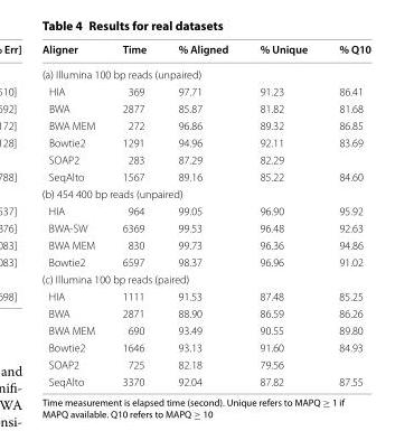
<table><thead><tr><td>Aligner</td><td>Time</td><td>% Aligned</td><td>% Unique</td><td>% Q10</td></tr></thead><tbody><tr><td colspan="5">(a) Illumina 100 bp reads (unpaired)</td></tr><tr><td>HIA</td><td>369</td><td>97.71</td><td>91.23</td><td>86.41</td></tr><tr><td>BWA</td><td>2877</td><td>85.87</td><td>81.82</td><td>81.68</td></tr><tr><td>BWA MEM</td><td>272</td><td>96.86</td><td>89.32</td><td>86.85</td></tr><tr><td>Bowtie2</td><td>1291</td><td>94.96</td><td>92.11</td><td>83.69</td></tr><tr><td>SOAP2</td><td>283</td><td>87.29</td><td>82.29</td><td></td></tr><tr><td>SeqAlto</td><td>1567</td><td>89.16</td><td>85.22</td><td>84.60</td></tr><tr><td colspan="5">(b) 454 400 bp reads (unpaired)</td></tr><tr><td>HIA</td><td>964</td><td>99.05</td><td>96.90</td><td>95.92</td></tr><tr><td>BWA-SW</td><td>6369</td><td>99.53</td><td>96.48</td><td>92.63</td></tr><tr><td>BWA MEM</td><td>830</td><td>99.73</td><td>96.36</td><td>94.86</td></tr><tr><td>Bowtie2</td><td>6597</td><td>98.37</td><td>96.96</td><td>91.02</td></tr><tr><td colspan="5">(c) Illumina 100 bp reads (paired)</td></tr><tr><td>HIA</td><td>1111</td><td>91.53</td><td>87.48</td><td>85.25</td></tr><tr><td>BWA</td><td>2871</td><td>88.90</td><td>86.59</td><td>86.26</td></tr><tr><td>BWA MEM</td><td>690</td><td>93.49</td><td>90.55</td><td>89.80</td></tr><tr><td>Bowtie2</td><td>1646</td><td>93.13</td><td>91.60</td><td>84.93</td></tr><tr><td>SOAP2</td><td>725</td><td>82.18</td><td>79.56</td><td></td></tr><tr><td>SeqAlto</td><td>3370</td><td>92.04</td><td>87.82</td><td>87.55</td></tr></tbody></table>